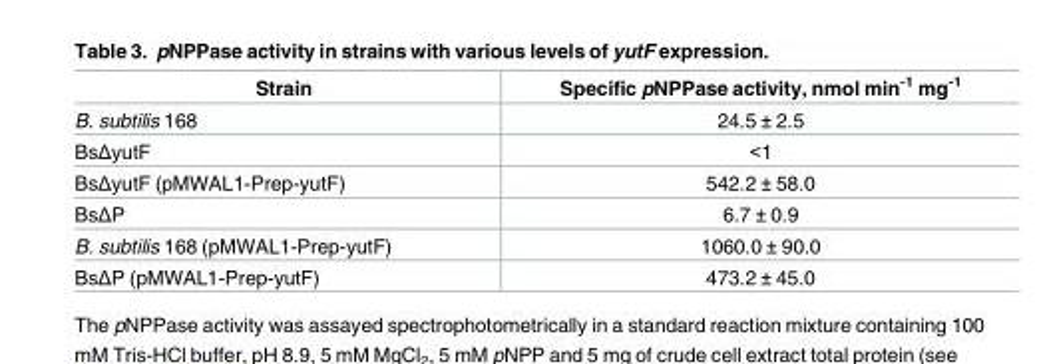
<table><thead><tr><td>Strain</td><td>Specific pNPPase activity, nmol min<sup>-1</sup> mg<sup>-1</sup></td></tr></thead><tbody><tr><td>B. subtilis 168</td><td>24.5 ± 2.5</td></tr><tr><td>BsΔyutF</td><td>&lt;1</td></tr><tr><td>BsΔyutF (pMWAL1-Prep-yutF)</td><td>542.2 ± 58.0</td></tr><tr><td>BsΔP</td><td>6.7 ± 0.9</td></tr><tr><td>B. subtilis 168 (pMWAL1-Prep-yutF)</td><td>1060.0 ± 90.0</td></tr><tr><td>BsΔP (pMWAL1-Prep-yutF)</td><td>473.2 ± 45.0</td></tr></tbody></table>